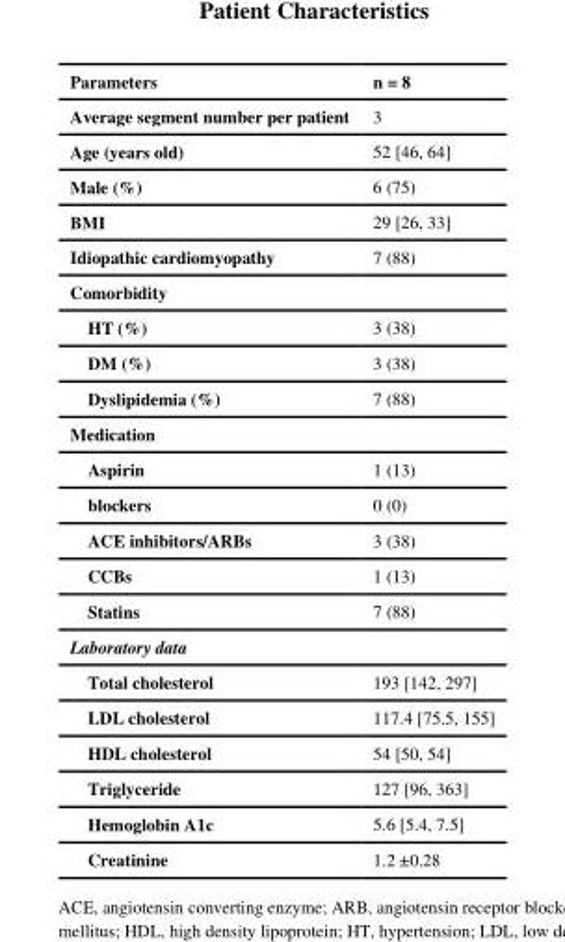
<table><thead><tr><td>Parameters</td><td>n = 8</td></tr></thead><tbody><tr><td>Average segment number per patient</td><td>3</td></tr><tr><td>Age (years old)</td><td>52 [46, 64]</td></tr><tr><td>Male (%)</td><td>6 (75)</td></tr><tr><td>BMI</td><td>29 [26, 33]</td></tr><tr><td>Idiopathic cardiomyopathy</td><td>7 (88)</td></tr><tr><td colspan="2">Comorbidity</td></tr><tr><td>HT (%)</td><td>3 (38)</td></tr><tr><td>DM (%)</td><td>3 (38)</td></tr><tr><td>Dyslipidemia (%)</td><td>7 (88)</td></tr><tr><td colspan="2">Medication</td></tr><tr><td>Aspirin</td><td>1 (13)</td></tr><tr><td>blockers</td><td>0 (0)</td></tr><tr><td>ACE inhibitors/ARBs</td><td>3 (38)</td></tr><tr><td>CCBs</td><td>1 (13)</td></tr><tr><td>Statins</td><td>7 (88)</td></tr><tr><td colspan="2">Laboratory data</td></tr><tr><td>Total cholesterol</td><td>193 [142, 297]</td></tr><tr><td>LDL cholesterol</td><td>117.4 [75.5, 155]</td></tr><tr><td>HDL cholesterol</td><td>54 [50, 54]</td></tr><tr><td>Triglyceride</td><td>127 [96, 363]</td></tr><tr><td>Hemoglobin A1c</td><td>5.6 [5.4, 7.5]</td></tr><tr><td>Creatinine</td><td>1.2 ±0.28</td></tr></tbody></table>